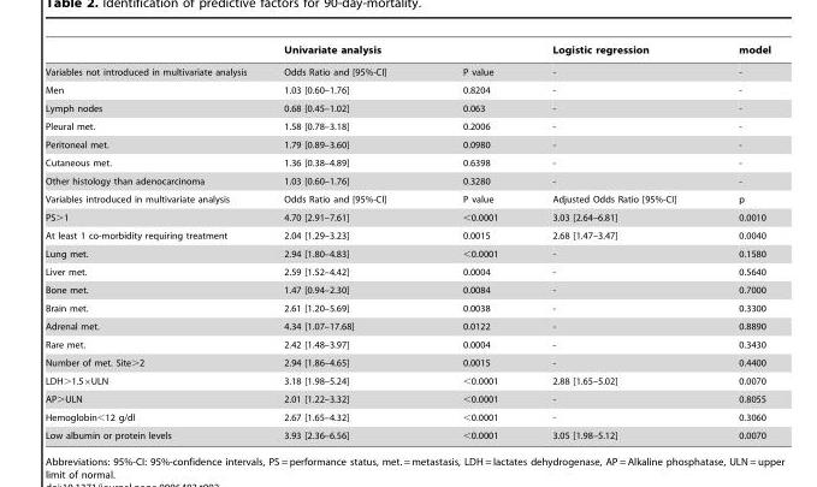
<table><thead><tr><td></td><td>Univariate analysis</td><td></td><td>Logistic regression</td><td>model</td></tr></thead><tbody><tr><td>Variables not introduced in multivariate analysis</td><td>Odds Ratio and [95%-CI]</td><td>P value</td><td>-</td><td>-</td></tr><tr><td>Men</td><td>1.03 [0.60–1.76]</td><td>0.8204</td><td>-</td><td>-</td></tr><tr><td>Lymph nodes</td><td>0.68 [0.45–1.02]</td><td>0.063</td><td>-</td><td>-</td></tr><tr><td>Pleural met.</td><td>1.58 [0.78–3.18]</td><td>0.2006</td><td>-</td><td>-</td></tr><tr><td>Peritoneal met.</td><td>1.79 [0.89–3.60]</td><td>0.0980</td><td>-</td><td>-</td></tr><tr><td>Cutaneous met.</td><td>1.36 [0.38–4.89]</td><td>0.6398</td><td>-</td><td>-</td></tr><tr><td>Other histology than adenocarcinoma</td><td>1.03 [0.60–1.76]</td><td>0.3280</td><td>-</td><td>-</td></tr><tr><td>Variables introduced in multivariate analysis</td><td>Odds Ratio and [95%-CI]</td><td>P value</td><td>Adjusted Odds Ratio [95%-CI]</td><td>p</td></tr><tr><td>PS&gt;1</td><td>4.70 [2.91–7.61]</td><td>&lt;0.0001</td><td>3.03 [2.64–6.81]</td><td>0.0010</td></tr><tr><td>At least 1 co-morbidity requiring treatment</td><td>2.04 [1.29–3.23]</td><td>0.0015</td><td>2.68 [1.47–3.47]</td><td>0.0040</td></tr><tr><td>Lung met.</td><td>2.94 [1.80–4.83]</td><td>&lt;0.0001</td><td>-</td><td>0.1580</td></tr><tr><td>Liver met.</td><td>2.59 [1.52–4.42]</td><td>0.0004</td><td>-</td><td>0.5640</td></tr><tr><td>Bone met.</td><td>1.47 [0.94–2.30]</td><td>0.0084</td><td>-</td><td>0.7000</td></tr><tr><td>Brain met.</td><td>2.61 [1.20–5.69]</td><td>0.0038</td><td>-</td><td>0.3300</td></tr><tr><td>Adrenal met.</td><td>4.34 [1.07–17.68]</td><td>0.0122</td><td>-</td><td>0.8890</td></tr><tr><td>Rare met.</td><td>2.42 [1.48–3.97]</td><td>0.0004</td><td>-</td><td>0.3430</td></tr><tr><td>Number of met. Site&gt;2</td><td>2.94 [1.86–4.65]</td><td>0.0015</td><td>-</td><td>0.4400</td></tr><tr><td>LDH&gt;1.5×ULN</td><td>3.18 [1.98–5.24]</td><td>&lt;0.0001</td><td>2.88 [1.65–5.02]</td><td>0.0070</td></tr><tr><td>AP&gt;ULN</td><td>2.01 [1.22–3.32]</td><td>&lt;0.0001</td><td>-</td><td>0.8055</td></tr><tr><td>Hemoglobin&lt;12 g/dl</td><td>2.67 [1.65–4.32]</td><td>&lt;0.0001</td><td>-</td><td>0.3060</td></tr><tr><td>Low albumin or protein levels</td><td>3.93 [2.36–6.56]</td><td>&lt;0.0001</td><td>3.05 [1.98–5.12]</td><td>0.0070</td></tr></tbody></table>